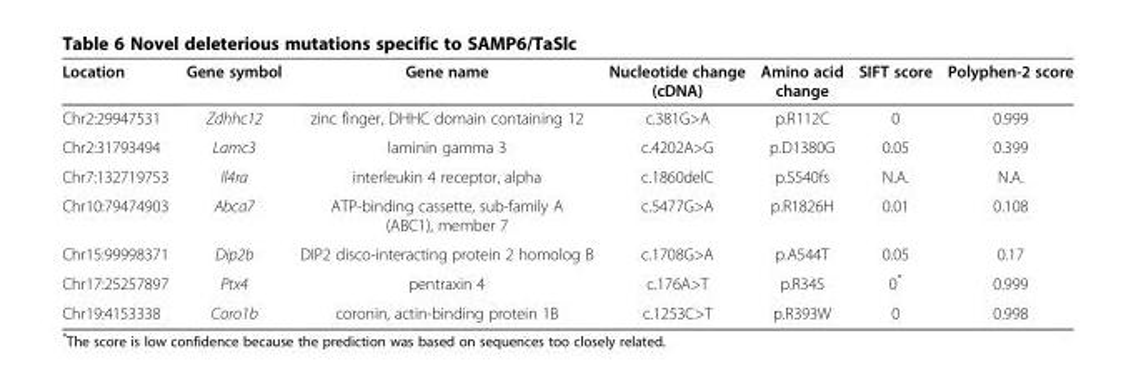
<table><thead><tr><td>Location</td><td>Gene symbol</td><td>Gene name</td><td>Nucleotide change (cDNA)</td><td>Amino acid change</td><td>SIFT score</td><td>Polyphen-2 score</td></tr></thead><tbody><tr><td>Chr2:29947531</td><td>Zdhhc12</td><td>zinc finger, DHHC domain containing 12</td><td>c.381G&gt;A</td><td>p.R112C</td><td>0</td><td>0.999</td></tr><tr><td>Chr2:31793494</td><td>Lamc3</td><td>laminin gamma 3</td><td>c.4202A&gt;G</td><td>p.D1380G</td><td>0.05</td><td>0.399</td></tr><tr><td>Chr7:132719753</td><td>Il4ra</td><td>interleukin 4 receptor, alpha</td><td>c.1860delC</td><td>p.S540fs</td><td>N.A.</td><td>N.A.</td></tr><tr><td>Chr10:79474903</td><td>Abca7</td><td>ATP-binding cassette, sub-family A (ABC1), member 7</td><td>c.5477G&gt;A</td><td>p.R1826H</td><td>0.01</td><td>0.108</td></tr><tr><td>Chr15:99998371</td><td>Dip2b</td><td>DIP2 disco-interacting protein 2 homolog B</td><td>c.1708G&gt;A</td><td>p.A544T</td><td>0.05</td><td>0.17</td></tr><tr><td>Chr17:25257897</td><td>Ptx4</td><td>pentraxin 4</td><td>c.176A&gt;T</td><td>p.R34S</td><td>0*</td><td>0.999</td></tr><tr><td>Chr19:4153338</td><td>Coro1b</td><td>coronin, actin-binding protein 1B</td><td>c.1253C&gt;T</td><td>p.R393W</td><td>0</td><td>0.998</td></tr></tbody></table>